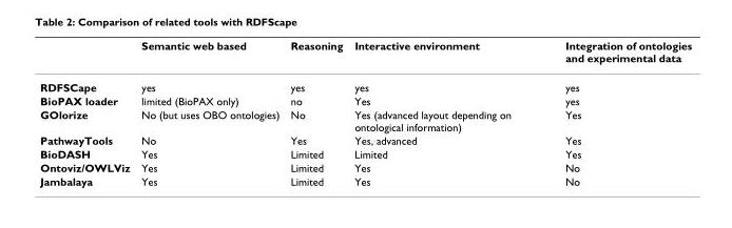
<table><thead><tr><td></td><td>Semantic web based</td><td>Reasoning</td><td>Interactive environment</td><td>Integration of ontologies and experimental data</td></tr></thead><tbody><tr><td>RDFSCape</td><td>yes</td><td>yes</td><td>yes</td><td>yes</td></tr><tr><td>BioPAX loader</td><td>limited (BioPAX only)</td><td>no</td><td>Yes</td><td>yes</td></tr><tr><td>GOlorize</td><td>No (but uses OBO ontologies)</td><td>No</td><td>Yes (advanced layout depending on ontological information)</td><td>Yes</td></tr><tr><td>PathwayTools</td><td>No</td><td>Yes</td><td>Yes, advanced</td><td>Yes</td></tr><tr><td>BioDASH</td><td>Yes</td><td>Limited</td><td>Limited</td><td>Yes</td></tr><tr><td>Ontoviz/OWLViz</td><td>Yes</td><td>Limited</td><td>Yes</td><td>No</td></tr><tr><td>Jambalaya</td><td>Yes</td><td>Limited</td><td>Yes</td><td>No</td></tr></tbody></table>